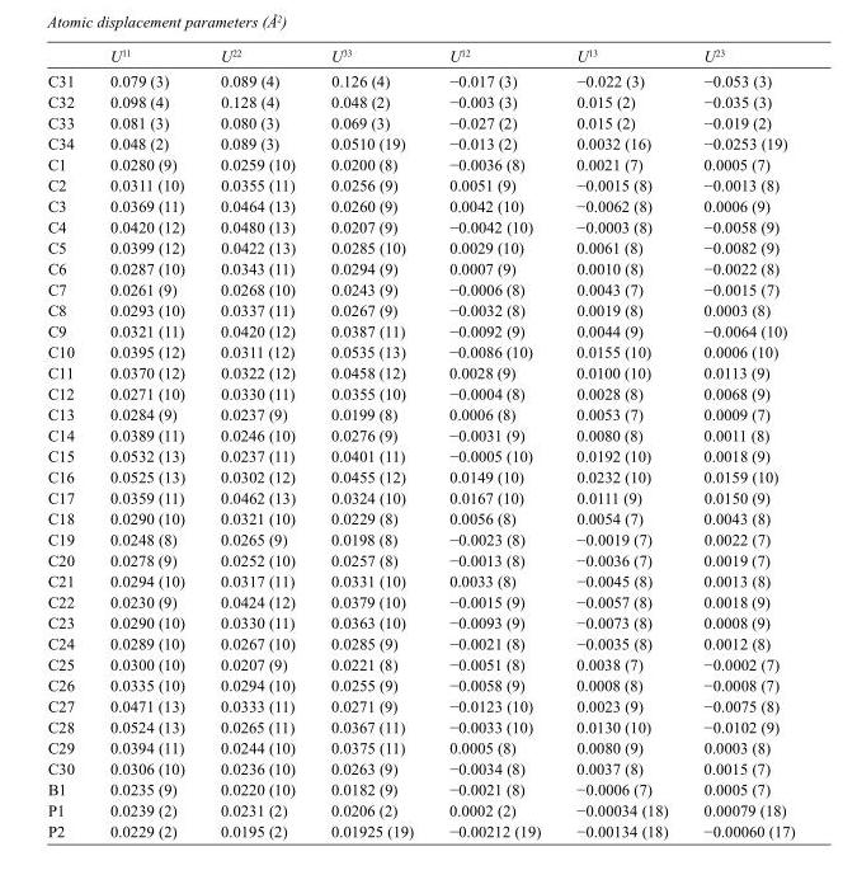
<table><thead><tr><td></td><td>U<sup>11</sup></td><td>U<sup>22</sup></td><td>U<sup>33</sup></td><td>U<sup>12</sup></td><td>U<sup>13</sup></td><td>U<sup>23</sup></td></tr></thead><tbody><tr><td>C31</td><td>0.079 (3)</td><td>0.089 (4)</td><td>0.126 (4)</td><td>−0.017 (3)</td><td>−0.022 (3)</td><td>−0.053 (3)</td></tr><tr><td>C32</td><td>0.098 (4)</td><td>0.128 (4)</td><td>0.048 (2)</td><td>−0.003 (3)</td><td>0.015 (2)</td><td>−0.035 (3)</td></tr><tr><td>C33</td><td>0.081 (3)</td><td>0.080 (3)</td><td>0.069 (3)</td><td>−0.027 (2)</td><td>0.015 (2)</td><td>−0.019 (2)</td></tr><tr><td>C34</td><td>0.048 (2)</td><td>0.089 (3)</td><td>0.0510 (19)</td><td>−0.013 (2)</td><td>0.0032 (16)</td><td>−0.0253 (19)</td></tr><tr><td>C1</td><td>0.0280 (9)</td><td>0.0259 (10)</td><td>0.0200 (8)</td><td>−0.0036 (8)</td><td>0.0021 (7)</td><td>0.0005 (7)</td></tr><tr><td>C2</td><td>0.0311 (10)</td><td>0.0355 (11)</td><td>0.0256 (9)</td><td>0.0051 (9)</td><td>−0.0015 (8)</td><td>−0.0013 (8)</td></tr><tr><td>C3</td><td>0.0369 (11)</td><td>0.0464 (13)</td><td>0.0260 (9)</td><td>0.0042 (10)</td><td>−0.0062 (8)</td><td>0.0006 (9)</td></tr><tr><td>C4</td><td>0.0420 (12)</td><td>0.0480 (13)</td><td>0.0207 (9)</td><td>−0.0042 (10)</td><td>−0.0003 (8)</td><td>−0.0058 (9)</td></tr><tr><td>C5</td><td>0.0399 (12)</td><td>0.0422 (13)</td><td>0.0285 (10)</td><td>0.0029 (10)</td><td>0.0061 (8)</td><td>−0.0082 (9)</td></tr><tr><td>C6</td><td>0.0287 (10)</td><td>0.0343 (11)</td><td>0.0294 (9)</td><td>0.0007 (9)</td><td>0.0010 (8)</td><td>−0.0022 (8)</td></tr><tr><td>C7</td><td>0.0261 (9)</td><td>0.0268 (10)</td><td>0.0243 (9)</td><td>−0.0006 (8)</td><td>0.0043 (7)</td><td>−0.0015 (7)</td></tr><tr><td>C8</td><td>0.0293 (10)</td><td>0.0337 (11)</td><td>0.0267 (9)</td><td>−0.0032 (8)</td><td>0.0019 (8)</td><td>0.0003 (8)</td></tr><tr><td>C9</td><td>0.0321 (11)</td><td>0.0420 (12)</td><td>0.0387 (11)</td><td>−0.0092 (9)</td><td>0.0044 (9)</td><td>−0.0064 (10)</td></tr><tr><td>C10</td><td>0.0395 (12)</td><td>0.0311 (12)</td><td>0.0535 (13)</td><td>−0.0086 (10)</td><td>0.0155 (10)</td><td>0.0006 (10)</td></tr><tr><td>C11</td><td>0.0370 (12)</td><td>0.0322 (12)</td><td>0.0458 (12)</td><td>0.0028 (9)</td><td>0.0100 (10)</td><td>0.0113 (9)</td></tr><tr><td>C12</td><td>0.0271 (10)</td><td>0.0330 (11)</td><td>0.0355 (10)</td><td>−0.0004 (8)</td><td>0.0028 (8)</td><td>0.0068 (9)</td></tr><tr><td>C13</td><td>0.0284 (9)</td><td>0.0237 (9)</td><td>0.0199 (8)</td><td>0.0006 (8)</td><td>0.0053 (7)</td><td>0.0009 (7)</td></tr><tr><td>C14</td><td>0.0389 (11)</td><td>0.0246 (10)</td><td>0.0276 (9)</td><td>−0.0031 (9)</td><td>0.0080 (8)</td><td>0.0011 (8)</td></tr><tr><td>C15</td><td>0.0532 (13)</td><td>0.0237 (11)</td><td>0.0401 (11)</td><td>−0.0005 (10)</td><td>0.0192 (10)</td><td>0.0018 (9)</td></tr><tr><td>C16</td><td>0.0525 (13)</td><td>0.0302 (12)</td><td>0.0455 (12)</td><td>0.0149 (10)</td><td>0.0232 (10)</td><td>0.0159 (10)</td></tr><tr><td>C17</td><td>0.0359 (11)</td><td>0.0462 (13)</td><td>0.0324 (10)</td><td>0.0167 (10)</td><td>0.0111 (9)</td><td>0.0150 (9)</td></tr><tr><td>C18</td><td>0.0290 (10)</td><td>0.0321 (10)</td><td>0.0229 (8)</td><td>0.0056 (8)</td><td>0.0054 (7)</td><td>0.0043 (8)</td></tr><tr><td>C19</td><td>0.0248 (8)</td><td>0.0265 (9)</td><td>0.0198 (8)</td><td>−0.0023 (8)</td><td>−0.0019 (7)</td><td>0.0022 (7)</td></tr><tr><td>C20</td><td>0.0278 (9)</td><td>0.0252 (10)</td><td>0.0257 (8)</td><td>−0.0013 (8)</td><td>−0.0036 (7)</td><td>0.0019 (7)</td></tr><tr><td>C21</td><td>0.0294 (10)</td><td>0.0317 (11)</td><td>0.0331 (10)</td><td>0.0033 (8)</td><td>−0.0045 (8)</td><td>0.0013 (8)</td></tr><tr><td>C22</td><td>0.0230 (9)</td><td>0.0424 (12)</td><td>0.0379 (10)</td><td>−0.0015 (9)</td><td>−0.0057 (8)</td><td>0.0018 (9)</td></tr><tr><td>C23</td><td>0.0290 (10)</td><td>0.0330 (11)</td><td>0.0363 (10)</td><td>−0.0093 (9)</td><td>−0.0073 (8)</td><td>0.0008 (9)</td></tr><tr><td>C24</td><td>0.0289 (10)</td><td>0.0267 (10)</td><td>0.0285 (9)</td><td>−0.0021 (8)</td><td>−0.0035 (8)</td><td>0.0012 (8)</td></tr><tr><td>C25</td><td>0.0300 (10)</td><td>0.0207 (9)</td><td>0.0221 (8)</td><td>−0.0051 (8)</td><td>0.0038 (7)</td><td>−0.0002 (7)</td></tr><tr><td>C26</td><td>0.0335 (10)</td><td>0.0294 (10)</td><td>0.0255 (9)</td><td>−0.0058 (9)</td><td>0.0008 (8)</td><td>−0.0008 (7)</td></tr><tr><td>C27</td><td>0.0471 (13)</td><td>0.0333 (11)</td><td>0.0271 (9)</td><td>−0.0123 (10)</td><td>0.0023 (9)</td><td>−0.0075 (8)</td></tr><tr><td>C28</td><td>0.0524 (13)</td><td>0.0265 (11)</td><td>0.0367 (11)</td><td>−0.0033 (10)</td><td>0.0130 (10)</td><td>−0.0102 (9)</td></tr><tr><td>C29</td><td>0.0394 (11)</td><td>0.0244 (10)</td><td>0.0375 (11)</td><td>0.0005 (8)</td><td>0.0080 (9)</td><td>0.0003 (8)</td></tr><tr><td>C30</td><td>0.0306 (10)</td><td>0.0236 (10)</td><td>0.0263 (9)</td><td>−0.0034 (8)</td><td>0.0037 (8)</td><td>0.0015 (7)</td></tr><tr><td>B1</td><td>0.0235 (9)</td><td>0.0220 (10)</td><td>0.0182 (9)</td><td>−0.0021 (8)</td><td>−0.0006 (7)</td><td>0.0005 (7)</td></tr><tr><td>P1</td><td>0.0239 (2)</td><td>0.0231 (2)</td><td>0.0206 (2)</td><td>0.0002 (2)</td><td>−0.00034 (18)</td><td>0.00079 (18)</td></tr><tr><td>P2</td><td>0.0229 (2)</td><td>0.0195 (2)</td><td>0.01925 (19)</td><td>−0.00212 (19)</td><td>−0.00134 (18)</td><td>−0.00060 (17)</td></tr></tbody></table>